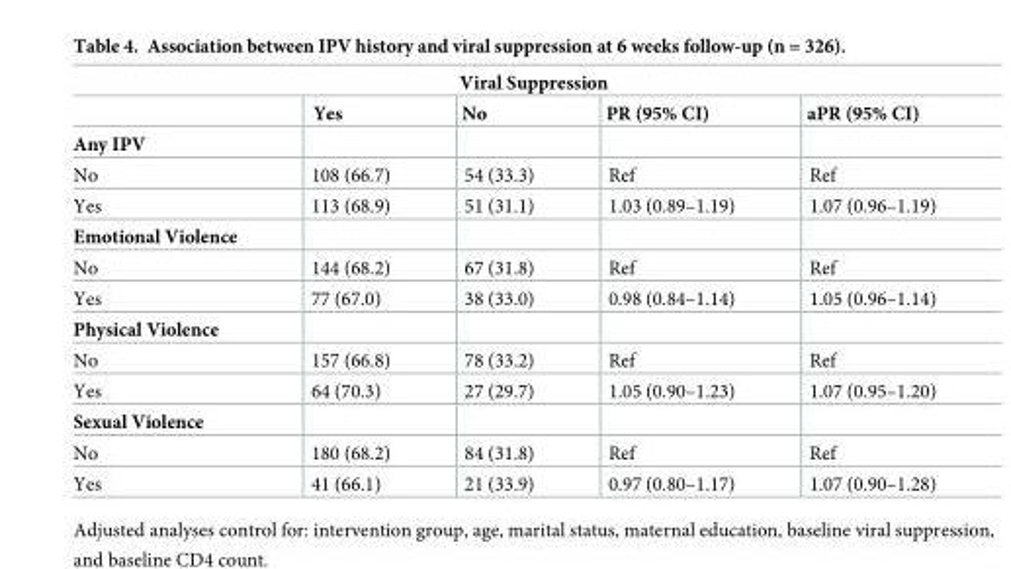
<table><thead><tr><td colspan="5">Viral Suppression</td></tr><tr><td></td><td>Yes</td><td>No</td><td>PR (95% CI)</td><td>aPR (95% CI)</td></tr></thead><tbody><tr><td colspan="5">Any IPV</td></tr><tr><td>No</td><td>108 (66.7)</td><td>54 (33.3)</td><td>Ref</td><td>Ref</td></tr><tr><td>Yes</td><td>113 (68.9)</td><td>51 (31.1)</td><td>1.03 (0.89–1.19)</td><td>1.07 (0.96–1.19)</td></tr><tr><td colspan="5">Emotional Violence</td></tr><tr><td>No</td><td>144 (68.2)</td><td>67 (31.8)</td><td>Ref</td><td>Ref</td></tr><tr><td>Yes</td><td>77 (67.0)</td><td>38 (33.0)</td><td>0.98 (0.84–1.14)</td><td>1.05 (0.96–1.14)</td></tr><tr><td colspan="5">Physical Violence</td></tr><tr><td>No</td><td>157 (66.8)</td><td>78 (33.2)</td><td>Ref</td><td>Ref</td></tr><tr><td>Yes</td><td>64 (70.3)</td><td>27 (29.7)</td><td>1.05 (0.90–1.23)</td><td>1.07 (0.95–1.20)</td></tr><tr><td colspan="5">Sexual Violence</td></tr><tr><td>No</td><td>180 (68.2)</td><td>84 (31.8)</td><td>Ref</td><td>Ref</td></tr><tr><td>Yes</td><td>41 (66.1)</td><td>21 (33.9)</td><td>0.97 (0.80–1.17)</td><td>1.07 (0.90–1.28)</td></tr></tbody></table>